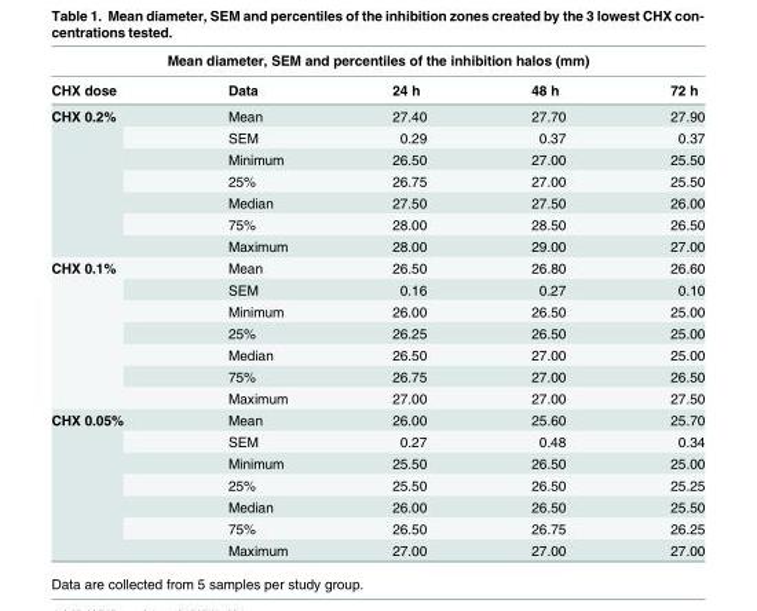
<table><thead><tr><td colspan="5">Mean diameter, SEM and percentiles of the inhibition halos (mm)</td></tr><tr><td>CHX dose</td><td>Data</td><td>24 h</td><td>48 h</td><td>72 h</td></tr></thead><tbody><tr><td rowspan="7">CHX 0.2%</td><td>Mean</td><td>27.40</td><td>27.70</td><td>27.90</td></tr><tr><td>SEM</td><td>0.29</td><td>0.37</td><td>0.37</td></tr><tr><td>Minimum</td><td>26.50</td><td>27.00</td><td>25.50</td></tr><tr><td>25%</td><td>26.75</td><td>27.00</td><td>25.50</td></tr><tr><td>Median</td><td>27.50</td><td>27.50</td><td>26.00</td></tr><tr><td>75%</td><td>28.00</td><td>28.50</td><td>26.50</td></tr><tr><td>Maximum</td><td>28.00</td><td>29.00</td><td>27.00</td></tr><tr><td rowspan="7">CHX 0.1%</td><td>Mean</td><td>26.50</td><td>26.80</td><td>26.60</td></tr><tr><td>SEM</td><td>0.16</td><td>0.27</td><td>0.10</td></tr><tr><td>Minimum</td><td>26.00</td><td>26.50</td><td>25.00</td></tr><tr><td>25%</td><td>26.25</td><td>26.50</td><td>25.00</td></tr><tr><td>Median</td><td>26.50</td><td>27.00</td><td>25.00</td></tr><tr><td>75%</td><td>26.75</td><td>27.00</td><td>26.50</td></tr><tr><td>Maximum</td><td>27.00</td><td>27.00</td><td>27.50</td></tr><tr><td rowspan="7">CHX 0.05%</td><td>Mean</td><td>26.00</td><td>25.60</td><td>25.70</td></tr><tr><td>SEM</td><td>0.27</td><td>0.48</td><td>0.34</td></tr><tr><td>Minimum</td><td>25.50</td><td>26.50</td><td>25.00</td></tr><tr><td>25%</td><td>25.50</td><td>26.50</td><td>25.25</td></tr><tr><td>Median</td><td>26.00</td><td>26.50</td><td>25.50</td></tr><tr><td>75%</td><td>26.50</td><td>26.75</td><td>26.25</td></tr><tr><td>Maximum</td><td>27.00</td><td>27.00</td><td>27.00</td></tr></tbody></table>